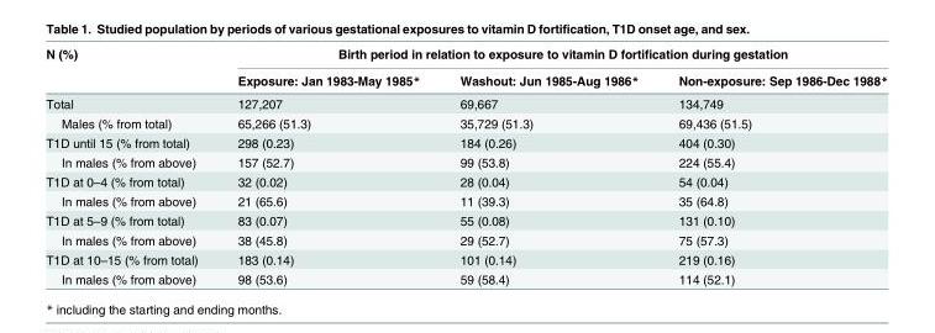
<table><thead><tr><td rowspan="2">N (%)</td><td colspan="3">Birth period in relation to exposure to vitamin D fortification during gestation</td></tr><tr><td>Exposure: Jan 1983-May 1985*</td><td>Washout: Jun 1985-Aug 1986*</td><td>Non-exposure: Sep 1986-Dec 1988*</td></tr></thead><tbody><tr><td>Total</td><td>127,207</td><td>69,667</td><td>134,749</td></tr><tr><td>Males (% from total)</td><td>65,266 (51.3)</td><td>35,729 (51.3)</td><td>69,436 (51.5)</td></tr><tr><td>T1D until 15 (% from total)</td><td>298 (0.23)</td><td>184 (0.26)</td><td>404 (0.30)</td></tr><tr><td>In males (% from above)</td><td>157 (52.7)</td><td>99 (53.8)</td><td>224 (55.4)</td></tr><tr><td>T1D at 0–4 (% from total)</td><td>32 (0.02)</td><td>28 (0.04)</td><td>54 (0.04)</td></tr><tr><td>In males (% from above)</td><td>21 (65.6)</td><td>11 (39.3)</td><td>35 (64.8)</td></tr><tr><td>T1D at 5–9 (% from total)</td><td>83 (0.07)</td><td>55 (0.08)</td><td>131 (0.10)</td></tr><tr><td>In males (% from above)</td><td>38 (45.8)</td><td>29 (52.7)</td><td>75 (57.3)</td></tr><tr><td>T1D at 10–15 (% from total)</td><td>183 (0.14)</td><td>101 (0.14)</td><td>219 (0.16)</td></tr><tr><td>In males (% from above)</td><td>98 (53.6)</td><td>59 (58.4)</td><td>114 (52.1)</td></tr></tbody></table>